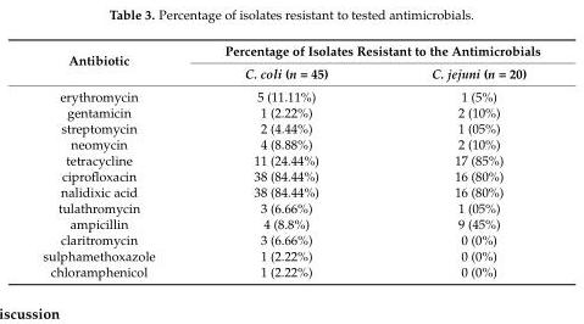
<table><thead><tr><td rowspan="2">Antibiotic</td><td colspan="2">Percentage of Isolates Resistant to the Antimicrobials</td></tr><tr><td>C. coli (n = 45)</td><td>C. jejuni (n = 20)</td></tr></thead><tbody><tr><td>erythromycin</td><td>5 (11.11%)</td><td>1 (5%)</td></tr><tr><td>gentamicin</td><td>1 (2.22%)</td><td>2 (10%)</td></tr><tr><td>streptomycin</td><td>2 (4.44%)</td><td>1 (05%)</td></tr><tr><td>neomycin</td><td>4 (8.88%)</td><td>2 (10%)</td></tr><tr><td>tetracycline</td><td>11 (24.44%)</td><td>17 (85%)</td></tr><tr><td>ciprofloxacin</td><td>38 (84.44%)</td><td>16 (80%)</td></tr><tr><td>nalidixic acid</td><td>38 (84.44%)</td><td>16 (80%)</td></tr><tr><td>tulathromycin</td><td>3 (6.66%)</td><td>1 (05%)</td></tr><tr><td>ampicillin</td><td>4 (8.8%)</td><td>9 (45%)</td></tr><tr><td>claritromycin</td><td>3 (6.66%)</td><td>0 (0%)</td></tr><tr><td>sulphamethoxazole</td><td>1 (2.22%)</td><td>0 (0%)</td></tr><tr><td>chloramphenicol</td><td>1 (2.22%)</td><td>0 (0%)</td></tr></tbody></table>